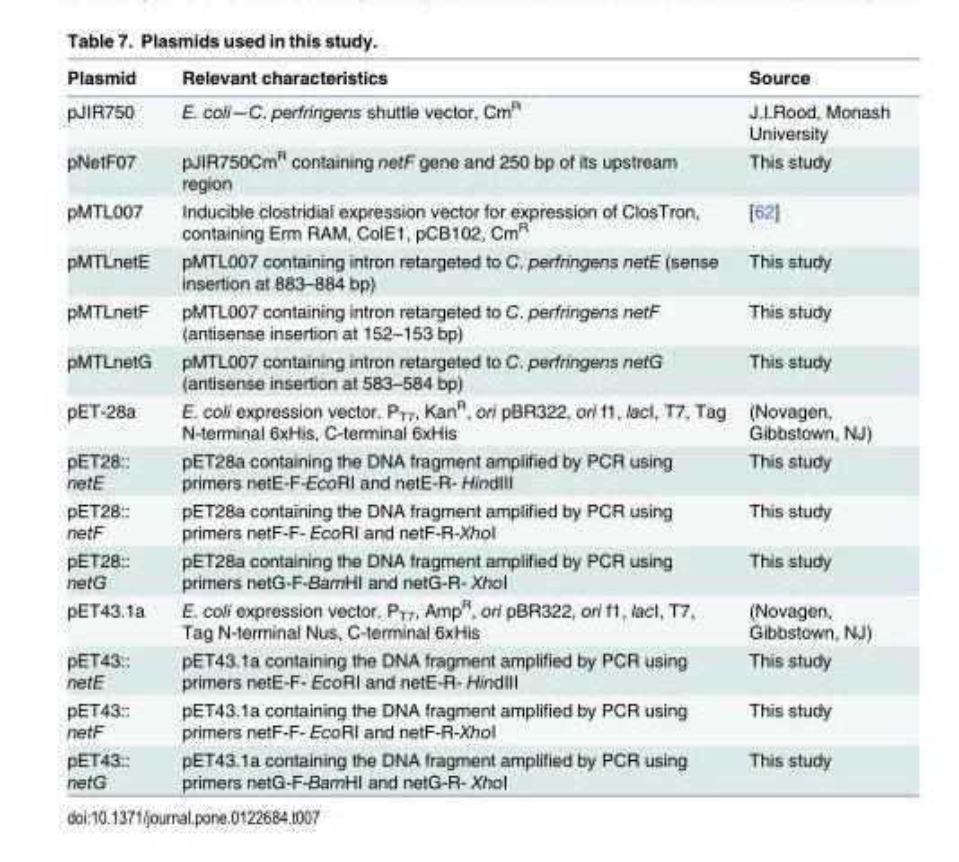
<table><thead><tr><td>Plasmid</td><td>Relevant characteristics</td><td>Source</td></tr></thead><tbody><tr><td>pJIR750</td><td>E. coli—C. perfringens shuttle vector, Cm<sup>R</sup></td><td>J.I.Rood, Monash University</td></tr><tr><td>pNetF07</td><td>pJIR750Cm<sup>R</sup> containing netF gene and 250 bp of its upstream region</td><td>This study</td></tr><tr><td>pMTL007</td><td>Inducible clostridial expression vector for expression of ClosTron, containing Erm RAM, ColE1, pCB102, Cm<sup>R</sup></td><td>[62]</td></tr><tr><td>pMTLnetE</td><td>pMTL007 containing intron retargeted to C. perfringens netE (sense insertion at 883–884 bp)</td><td>This study</td></tr><tr><td>pMTLnetF</td><td>pMTL007 containing intron retargeted to C. perfringens netF (antisense insertion at 152–153 bp)</td><td>This study</td></tr><tr><td>pMTLnetG</td><td>pMTL007 containing intron retargeted to C. perfringens netG (antisense insertion at 583–584 bp)</td><td>This study</td></tr><tr><td>pET-28a</td><td>E. coli expression vector. P<sub>T7</sub>, Kan<sup>R</sup>, ori pBR322, ori f1, lacI, T7, Tag N-terminal 6xHis, C-terminal 6xHis</td><td>(Novagen, Gibbstown, NJ)</td></tr><tr><td>pET28:: netE</td><td>pET28a containing the DNA fragment amplified by PCR using primers netE-F-EcoRI and netE-R- HindIII</td><td>This study</td></tr><tr><td>pET28:: netF</td><td>pET28a containing the DNA fragment amplified by PCR using primers netF-F- EcoRI and netF-R-XhoI</td><td>This study</td></tr><tr><td>pET28:: netG</td><td>pET28a containing the DNA fragment amplified by PCR using primers netG-F-BamHI and netG-R- XhoI</td><td>This study</td></tr><tr><td>pET43.1a</td><td>E. coli expression vector. P<sub>T7</sub>, Amp<sup>R</sup>, ori pBR322, ori f1, lacI, T7, Tag N-terminal Nus, C-terminal 6xHis</td><td>(Novagen, Gibbstown, NJ)</td></tr><tr><td>pET43:: netE</td><td>pET43.1a containing the DNA fragment amplified by PCR using primers netE-F- EcoRI and netE-R- HindIII</td><td>This study</td></tr><tr><td>pET43:: netF</td><td>pET43.1a containing the DNA fragment amplified by PCR using primers netF-F- EcoRI and netF-R-XhoI</td><td>This study</td></tr><tr><td>pET43:: netG</td><td>pET43.1a containing the DNA fragment amplified by PCR using primers netG-F-BamHI and netG-R- XhoI</td><td>This study</td></tr></tbody></table>